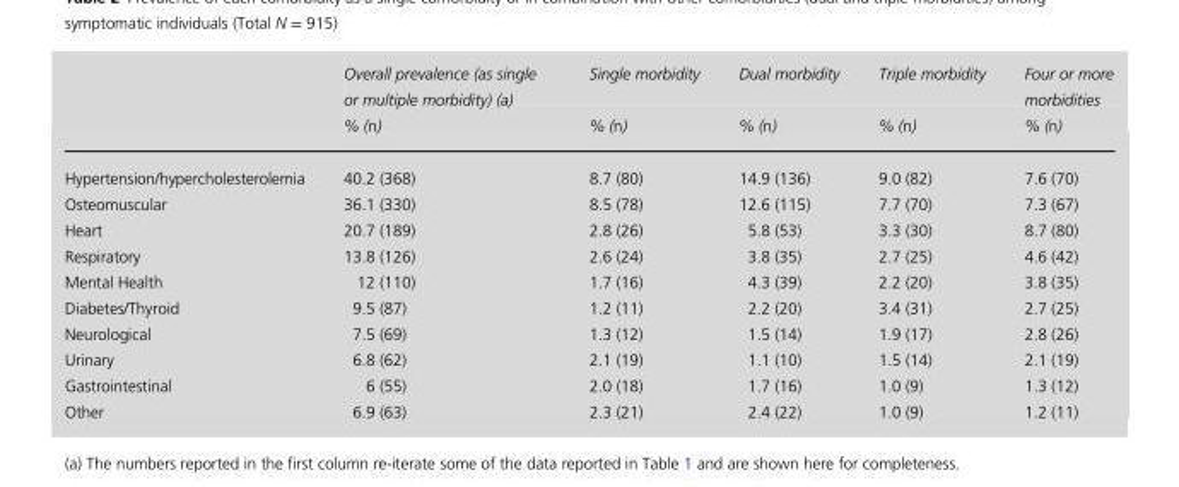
<table><thead><tr><td rowspan="2"></td><td rowspan="2">Overall prevalence (as single or multiple morbidity) (a) % (n)</td><td rowspan="2">Single morbidity % (n)</td><td rowspan="2">Dual morbidity % (n)</td><td rowspan="2">Triple morbidity % (n)</td><td rowspan="2">Four or more morbidities % (n)</td></tr><tr></tr></thead><tbody><tr><td>Hypertension/hypercholesterolemia</td><td>40.2 (368)</td><td>8.7 (80)</td><td>14.9 (136)</td><td>9.0 (82)</td><td>7.6 (70)</td></tr><tr><td>Osteomuscular</td><td>36.1 (330)</td><td>8.5 (78)</td><td>12.6 (115)</td><td>7.7 (70)</td><td>7.3 (67)</td></tr><tr><td>Heart</td><td>20.7 (189)</td><td>2.8 (26)</td><td>5.8 (53)</td><td>3.3 (30)</td><td>8.7 (80)</td></tr><tr><td>Respiratory</td><td>13.8 (126)</td><td>2.6 (24)</td><td>3.8 (35)</td><td>2.7 (25)</td><td>4.6 (42)</td></tr><tr><td>Mental Health</td><td>12 (110)</td><td>1.7 (16)</td><td>4.3 (39)</td><td>2.2 (20)</td><td>3.8 (35)</td></tr><tr><td>Diabetes/Thyroid</td><td>9.5 (87)</td><td>1.2 (11)</td><td>2.2 (20)</td><td>3.4 (31)</td><td>2.7 (25)</td></tr><tr><td>Neurological</td><td>7.5 (69)</td><td>1.3 (12)</td><td>1.5 (14)</td><td>1.9 (17)</td><td>2.8 (26)</td></tr><tr><td>Urinary</td><td>6.8 (62)</td><td>2.1 (19)</td><td>1.1 (10)</td><td>1.5 (14)</td><td>2.1 (19)</td></tr><tr><td>Gastrointestinal</td><td>6 (55)</td><td>2.0 (18)</td><td>1.7 (16)</td><td>1.0 (9)</td><td>1.3 (12)</td></tr><tr><td>Other</td><td>6.9 (63)</td><td>2.3 (21)</td><td>2.4 (22)</td><td>1.0 (9)</td><td>1.2 (11)</td></tr></tbody></table>